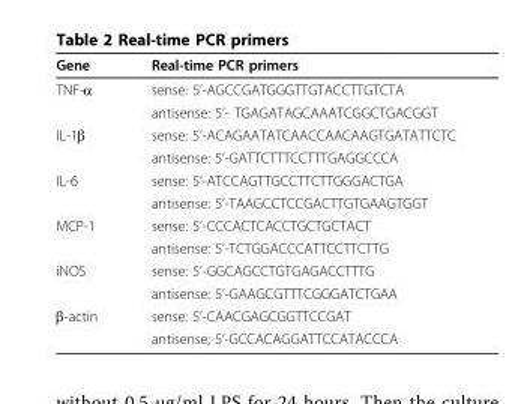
<table><thead><tr><td>Gene</td><td>Real-time PCR primers</td></tr></thead><tbody><tr><td rowspan="2">TNF-α</td><td>sense: 5’-AGCCGATGGGTTGTACCTTGTCTA</td></tr><tr><td>antisense: 5’- TGAGATAGCAAATCGGCTGACGGT</td></tr><tr><td rowspan="2">IL-1β</td><td>sense: 5’-ACAGAATATCAACCAACAAGTGATATTCTC</td></tr><tr><td>antisense: 5’-GATTCTTTCCTTTGAGGCCCA</td></tr><tr><td rowspan="2">IL-6</td><td>sense: 5’-ATCCAGTTGCCTTCTTGGGACTGA</td></tr><tr><td>antisense: 5’-TAAGCCTCCGACTTGTGAAGTGGT</td></tr><tr><td rowspan="2">MCP-1</td><td>sense: 5’-CCCACTCACCTGCTGCTACT</td></tr><tr><td>antisense: 5’-TCTGGACCCATTCCTTCTTG</td></tr><tr><td rowspan="2">iNOS</td><td>sense: 5’-GGCAGCCTGTGAGACCTTTG</td></tr><tr><td>antisense: 5’-GAAGCGTTTCGGGATCTGAA</td></tr><tr><td rowspan="2">β-actin</td><td>sense: 5’-CAACGAGCGGTTCCGAT</td></tr><tr><td>antisense; 5’-GCCACAGGATTCCATACCCA</td></tr></tbody></table>